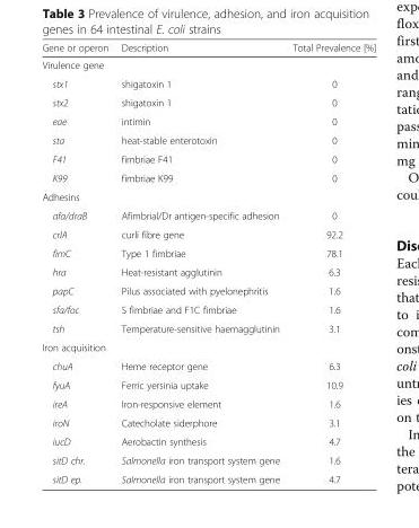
<table><thead><tr><td>Gene or operon</td><td>Description</td><td>Total Prevalence [%]</td></tr></thead><tbody><tr><td colspan="3">Virulence gene</td></tr><tr><td>stx1</td><td>shigatoxin 1</td><td>0</td></tr><tr><td>stx2</td><td>shigatoxin 1</td><td>0</td></tr><tr><td>eae</td><td>intimin</td><td>0</td></tr><tr><td>sta</td><td>heat-stable enterotoxin</td><td>0</td></tr><tr><td>F41</td><td>fimbriae F41</td><td>0</td></tr><tr><td>K99</td><td>fimbriae K99</td><td>0</td></tr><tr><td colspan="3">Adhesins</td></tr><tr><td>afa/draB</td><td>Afimbrial/Dr antigen-specific adhesion</td><td>0</td></tr><tr><td>crlA</td><td>curli fibre gene</td><td>92.2</td></tr><tr><td>fimC</td><td>Type 1 fimbriae</td><td>78.1</td></tr><tr><td>hra</td><td>Heat-resistant agglutinin</td><td>6.3</td></tr><tr><td>papC</td><td>Pilus associated with pyelonephritis</td><td>1.6</td></tr><tr><td>sfa/foc</td><td>S fimbriae and F1C fimbriae</td><td>1.6</td></tr><tr><td>tsh</td><td>Temperature-sensitive haemagglutinin</td><td>3.1</td></tr><tr><td colspan="3">Iron acquisition</td></tr><tr><td>chuA</td><td>Heme receptor gene</td><td>6.3</td></tr><tr><td>fyuA</td><td>Ferric yersinia uptake</td><td>10.9</td></tr><tr><td>ireA</td><td>Iron-responsive element</td><td>1.6</td></tr><tr><td>iroN</td><td>Catecholate siderphore</td><td>3.1</td></tr><tr><td>iucD</td><td>Aerobactin synthesis</td><td>4.7</td></tr><tr><td>sitD chr.</td><td>Salmonella iron transport system gene</td><td>1.6</td></tr><tr><td>sitD ep.</td><td>Salmonella iron transport system gene</td><td>4.7</td></tr></tbody></table>